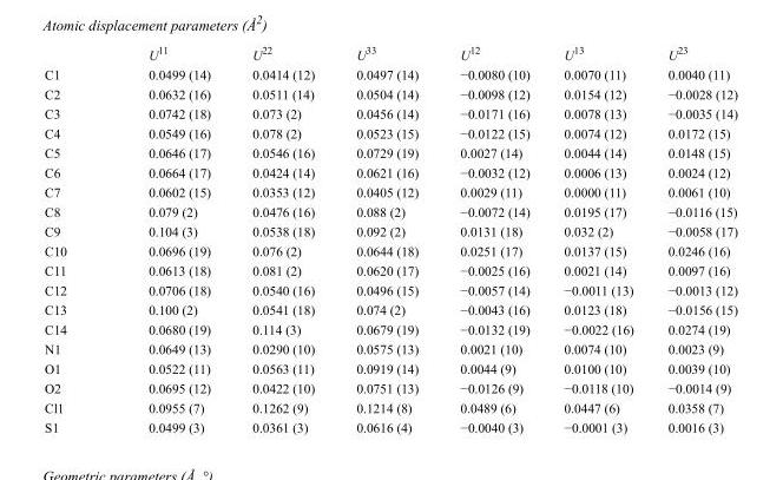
<table><thead><tr><td></td><td>U<sup>11</sup></td><td>U<sup>22</sup></td><td>U<sup>33</sup></td><td>U<sup>12</sup></td><td>U<sup>13</sup></td><td>U<sup>23</sup></td></tr></thead><tbody><tr><td>C1</td><td>0.0499 (14)</td><td>0.0414 (12)</td><td>0.0497 (14)</td><td>−0.0080 (10)</td><td>0.0070 (11)</td><td>0.0040 (11)</td></tr><tr><td>C2</td><td>0.0632 (16)</td><td>0.0511 (14)</td><td>0.0504 (14)</td><td>−0.0098 (12)</td><td>0.0154 (12)</td><td>−0.0028 (12)</td></tr><tr><td>C3</td><td>0.0742 (18)</td><td>0.073 (2)</td><td>0.0456 (14)</td><td>−0.0171 (16)</td><td>0.0078 (13)</td><td>−0.0035 (14)</td></tr><tr><td>C4</td><td>0.0549 (16)</td><td>0.078 (2)</td><td>0.0523 (15)</td><td>−0.0122 (15)</td><td>0.0074 (12)</td><td>0.0172 (15)</td></tr><tr><td>C5</td><td>0.0646 (17)</td><td>0.0546 (16)</td><td>0.0729 (19)</td><td>0.0027 (14)</td><td>0.0044 (14)</td><td>0.0148 (15)</td></tr><tr><td>C6</td><td>0.0664 (17)</td><td>0.0424 (14)</td><td>0.0621 (16)</td><td>−0.0032 (12)</td><td>0.0006 (13)</td><td>0.0024 (12)</td></tr><tr><td>C7</td><td>0.0602 (15)</td><td>0.0353 (12)</td><td>0.0405 (12)</td><td>0.0029 (11)</td><td>0.0000 (11)</td><td>0.0061 (10)</td></tr><tr><td>C8</td><td>0.079 (2)</td><td>0.0476 (16)</td><td>0.088 (2)</td><td>−0.0072 (14)</td><td>0.0195 (17)</td><td>−0.0116 (15)</td></tr><tr><td>C9</td><td>0.104 (3)</td><td>0.0538 (18)</td><td>0.092 (2)</td><td>0.0131 (18)</td><td>0.032 (2)</td><td>−0.0058 (17)</td></tr><tr><td>C10</td><td>0.0696 (19)</td><td>0.076 (2)</td><td>0.0644 (18)</td><td>0.0251 (17)</td><td>0.0137 (15)</td><td>0.0246 (16)</td></tr><tr><td>C11</td><td>0.0613 (18)</td><td>0.081 (2)</td><td>0.0620 (17)</td><td>−0.0025 (16)</td><td>0.0021 (14)</td><td>0.0097 (16)</td></tr><tr><td>C12</td><td>0.0706 (18)</td><td>0.0540 (16)</td><td>0.0496 (15)</td><td>−0.0057 (14)</td><td>−0.0011 (13)</td><td>−0.0013 (12)</td></tr><tr><td>C13</td><td>0.100 (2)</td><td>0.0541 (18)</td><td>0.074 (2)</td><td>−0.0043 (16)</td><td>0.0123 (18)</td><td>−0.0156 (15)</td></tr><tr><td>C14</td><td>0.0680 (19)</td><td>0.114 (3)</td><td>0.0679 (19)</td><td>−0.0132 (19)</td><td>−0.0022 (16)</td><td>0.0274 (19)</td></tr><tr><td>N1</td><td>0.0649 (13)</td><td>0.0290 (10)</td><td>0.0575 (13)</td><td>0.0021 (10)</td><td>0.0074 (10)</td><td>0.0023 (9)</td></tr><tr><td>O1</td><td>0.0522 (11)</td><td>0.0563 (11)</td><td>0.0919 (14)</td><td>0.0044 (9)</td><td>0.0100 (10)</td><td>0.0039 (10)</td></tr><tr><td>O2</td><td>0.0695 (12)</td><td>0.0422 (10)</td><td>0.0751 (13)</td><td>−0.0126 (9)</td><td>−0.0118 (10)</td><td>−0.0014 (9)</td></tr><tr><td>Cl1</td><td>0.0955 (7)</td><td>0.1262 (9)</td><td>0.1214 (8)</td><td>0.0489 (6)</td><td>0.0447 (6)</td><td>0.0358 (7)</td></tr><tr><td>S1</td><td>0.0499 (3)</td><td>0.0361 (3)</td><td>0.0616 (4)</td><td>−0.0040 (3)</td><td>−0.0001 (3)</td><td>0.0016 (3)</td></tr></tbody></table>